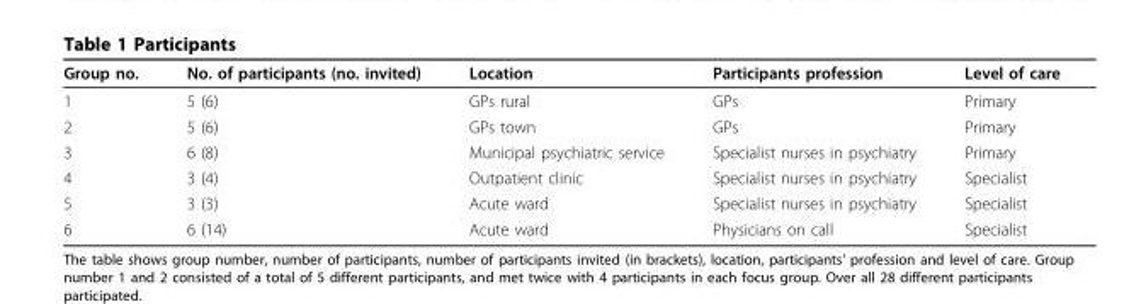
<table><thead><tr><td>Group no.</td><td>No. of participants (no. invited)</td><td>Location</td><td>Participants profession</td><td>Level of care</td></tr></thead><tbody><tr><td>1</td><td>5 (6)</td><td>GPs rural</td><td>GPs</td><td>Primary</td></tr><tr><td>2</td><td>5 (6)</td><td>GPs town</td><td>GPs</td><td>Primary</td></tr><tr><td>3</td><td>6 (8)</td><td>Municipal psychiatric service</td><td>Specialist nurses in psychiatry</td><td>Primary</td></tr><tr><td>4</td><td>3 (4)</td><td>Outpatient clinic</td><td>Specialist nurses in psychiatry</td><td>Specialist</td></tr><tr><td>5</td><td>3 (3)</td><td>Acute ward</td><td>Specialist nurses in psychiatry</td><td>Specialist</td></tr><tr><td>6</td><td>6 (14)</td><td>Acute ward</td><td>Physicians on call</td><td>Specialist</td></tr></tbody></table>